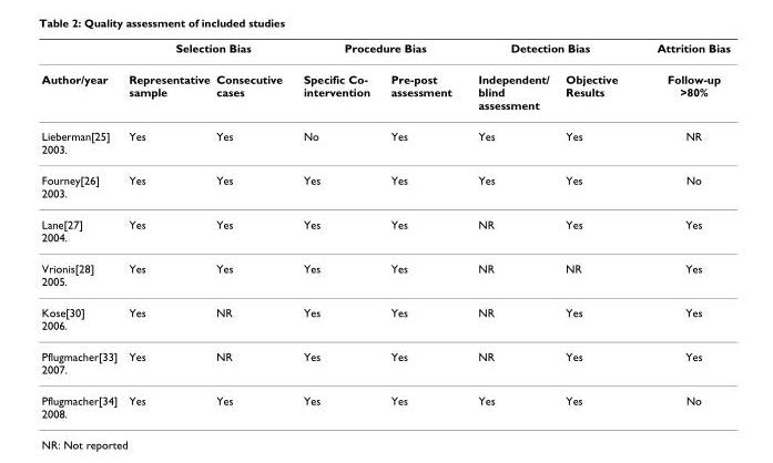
<table><thead><tr><td rowspan="2">Author/year</td><td colspan="2">Selection Bias</td><td colspan="2">Procedure Bias</td><td colspan="2">Detection Bias</td><td rowspan="2">Attrition Bias Follow-up &gt;80%</td></tr><tr><td>Representative sample</td><td>Consecutive cases</td><td>Specific Co- intervention</td><td>Pre-post assessment</td><td>Independent/ blind assessment</td><td>Objective Results</td></tr></thead><tbody><tr><td>Lieberman[25] 2003.</td><td>Yes</td><td>Yes</td><td>No</td><td>Yes</td><td>Yes</td><td>Yes</td><td>NR</td></tr><tr><td>Fourney[26] 2003.</td><td>Yes</td><td>Yes</td><td>Yes</td><td>Yes</td><td>Yes</td><td>Yes</td><td>No</td></tr><tr><td>Lane[27] 2004.</td><td>Yes</td><td>Yes</td><td>Yes</td><td>Yes</td><td>NR</td><td>Yes</td><td>Yes</td></tr><tr><td>Vrionis[28] 2005.</td><td>Yes</td><td>Yes</td><td>Yes</td><td>Yes</td><td>NR</td><td>NR</td><td>Yes</td></tr><tr><td>Kose[30] 2006.</td><td>Yes</td><td>NR</td><td>Yes</td><td>Yes</td><td>NR</td><td>Yes</td><td>Yes</td></tr><tr><td>Pflugmacher[33] 2007.</td><td>Yes</td><td>NR</td><td>Yes</td><td>Yes</td><td>NR</td><td>Yes</td><td>Yes</td></tr><tr><td>Pflugmacher[34] 2008.</td><td>Yes</td><td>Yes</td><td>Yes</td><td>Yes</td><td>Yes</td><td>Yes</td><td>No</td></tr></tbody></table>